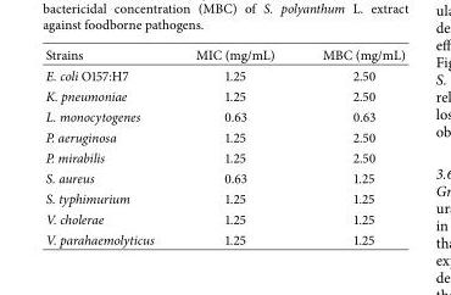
<table><thead><tr><td>Strains</td><td>MIC (mg/mL)</td><td>MBC (mg/mL)</td></tr></thead><tbody><tr><td>E. coli O157:H7</td><td>1.25</td><td>2.50</td></tr><tr><td>K. pneumoniae</td><td>1.25</td><td>2.50</td></tr><tr><td>L. monocytogenes</td><td>0.63</td><td>0.63</td></tr><tr><td>P. aeruginosa</td><td>1.25</td><td>2.50</td></tr><tr><td>P. mirabilis</td><td>1.25</td><td>2.50</td></tr><tr><td>S. aureus</td><td>0.63</td><td>1.25</td></tr><tr><td>S. typhimurium</td><td>1.25</td><td>1.25</td></tr><tr><td>V. cholerae</td><td>1.25</td><td>1.25</td></tr><tr><td>V. parahaemolyticus</td><td>1.25</td><td>1.25</td></tr></tbody></table>